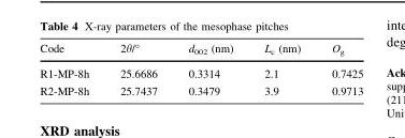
<table><thead><tr><td>Code</td><td>2θ/°</td><td>d<sub>002</sub> (nm)</td><td>L<sub>c</sub> (nm)</td><td>O<sub>g</sub></td></tr></thead><tbody><tr><td>R1-MP-8h</td><td>25.6686</td><td>0.3314</td><td>2.1</td><td>0.7425</td></tr><tr><td>R2-MP-8h</td><td>25.7437</td><td>0.3479</td><td>3.9</td><td>0.9713</td></tr></tbody></table>